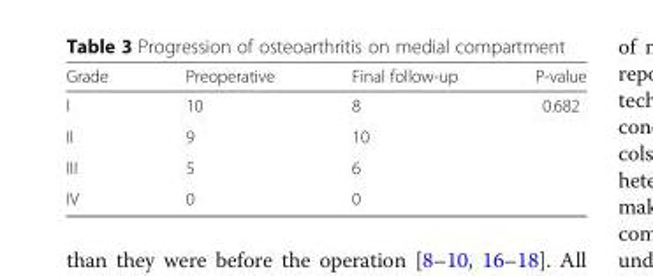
<table><thead><tr><td>Grade</td><td>Preoperative</td><td>Final follow-up</td><td>P-value</td></tr></thead><tbody><tr><td>I</td><td>10</td><td>8</td><td>0.682</td></tr><tr><td>II</td><td>9</td><td>10</td><td></td></tr><tr><td>III</td><td>5</td><td>6</td><td></td></tr><tr><td>IV</td><td>0</td><td>0</td><td></td></tr></tbody></table>